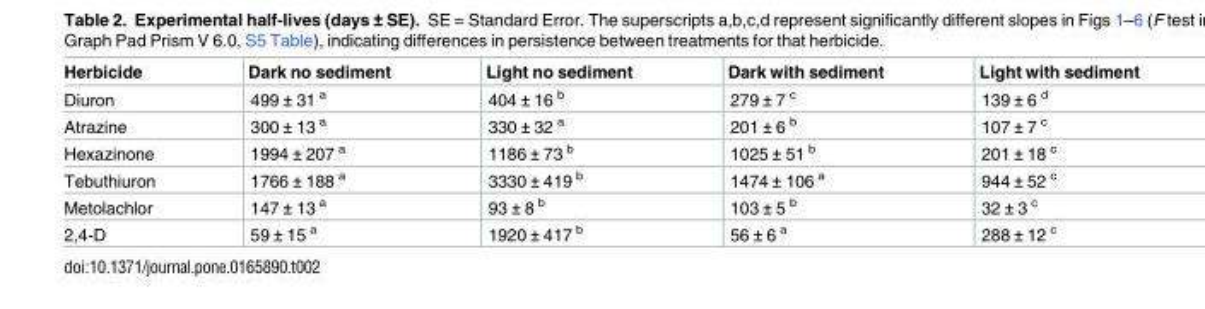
<table><thead><tr><td>Herbicide</td><td>Dark no sediment</td><td>Light no sediment</td><td>Dark with sediment</td><td>Light with sediment</td></tr></thead><tbody><tr><td>Diuron</td><td>499 ± 31 <sup>a</sup></td><td>404 ± 16 <sup>b</sup></td><td>279 ± 7 <sup>c</sup></td><td>139 ± 6 <sup>d</sup></td></tr><tr><td>Atrazine</td><td>300 ± 13 <sup>a</sup></td><td>330 ± 32 <sup>a</sup></td><td>201 ± 6 <sup>b</sup></td><td>107 ± 7 <sup>c</sup></td></tr><tr><td>Hexazinone</td><td>1994 ± 207 <sup>a</sup></td><td>1186 ± 73 <sup>b</sup></td><td>1025 ± 51 <sup>b</sup></td><td>201 ± 18 <sup>c</sup></td></tr><tr><td>Tebuthiuron</td><td>1766 ± 188 <sup>a</sup></td><td>3330 ± 419 <sup>b</sup></td><td>1474 ± 106 <sup>a</sup></td><td>944 ± 52 <sup>c</sup></td></tr><tr><td>Metolachlor</td><td>147 ± 13 <sup>a</sup></td><td>93 ± 8 <sup>b</sup></td><td>103 ± 5 <sup>b</sup></td><td>32 ± 3 <sup>c</sup></td></tr><tr><td>2,4-D</td><td>59 ± 15 <sup>a</sup></td><td>1920 ± 417 <sup>b</sup></td><td>56 ± 6 <sup>a</sup></td><td>288 ± 12 <sup>c</sup></td></tr></tbody></table>